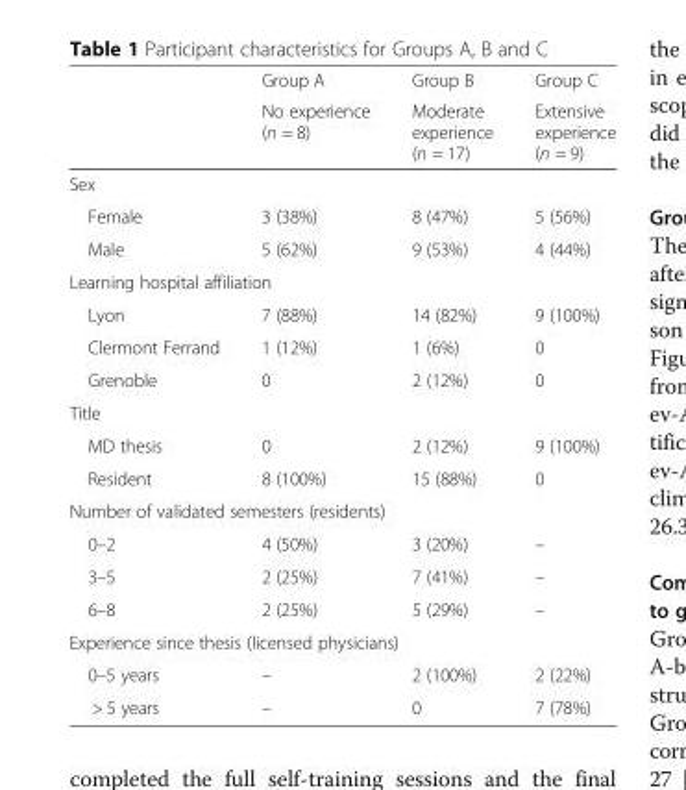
<table><thead><tr><td rowspan="2"></td><td rowspan="2">Group A No experience (n = 8)</td><td rowspan="2">Group B Moderate experience (n = 17)</td><td rowspan="2">Group C Extensive experience (n = 9)</td></tr><tr></tr></thead><tbody><tr><td colspan="4">Sex</td></tr><tr><td>Female</td><td>3 (38%)</td><td>8 (47%)</td><td>5 (56%)</td></tr><tr><td>Male</td><td>5 (62%)</td><td>9 (53%)</td><td>4 (44%)</td></tr><tr><td colspan="4">Learning hospital affiliation</td></tr><tr><td>Lyon</td><td>7 (88%)</td><td>14 (82%)</td><td>9 (100%)</td></tr><tr><td>Clermont Ferrand</td><td>1 (12%)</td><td>1 (6%)</td><td>0</td></tr><tr><td>Grenoble</td><td>0</td><td>2 (12%)</td><td>0</td></tr><tr><td colspan="4">Title</td></tr><tr><td>MD thesis</td><td>0</td><td>2 (12%)</td><td>9 (100%)</td></tr><tr><td>Resident</td><td>8 (100%)</td><td>15 (88%)</td><td>0</td></tr><tr><td colspan="4">Number of validated semesters (residents)</td></tr><tr><td>0–2</td><td>4 (50%)</td><td>3 (20%)</td><td>–</td></tr><tr><td>3–5</td><td>2 (25%)</td><td>7 (41%)</td><td>–</td></tr><tr><td>6–8</td><td>2 (25%)</td><td>5 (29%)</td><td>–</td></tr><tr><td colspan="4">Experience since thesis (licensed physicians)</td></tr><tr><td>0–5 years</td><td>–</td><td>2 (100%)</td><td>2 (22%)</td></tr><tr><td>&gt; 5 years</td><td>–</td><td>0</td><td>7 (78%)</td></tr></tbody></table>